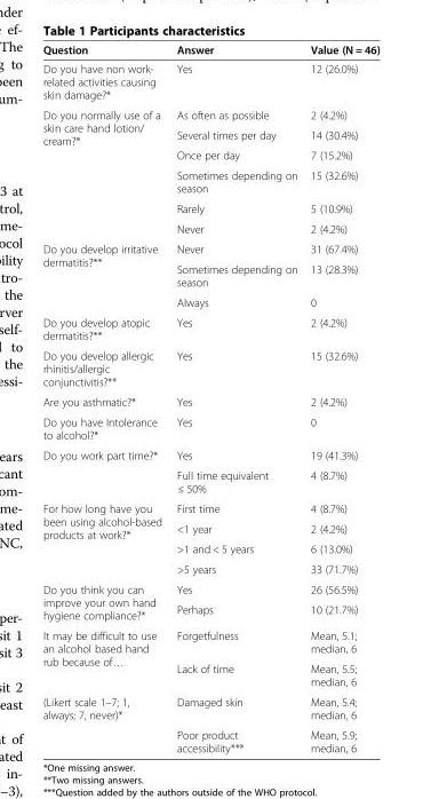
<table><thead><tr><td>Question</td><td>Answer</td><td>Value (N = 46)</td></tr></thead><tbody><tr><td>Do you have non work- related activities causing skin damage?*</td><td>Yes</td><td>12 (26.0%)</td></tr><tr><td rowspan="6">Do you normally use of a skin care hand lotion/ cream?*</td><td>As often as possible</td><td>2 (4.2%)</td></tr><tr><td>Several times per day</td><td>14 (30.4%)</td></tr><tr><td>Once per day</td><td>7 (15.2%)</td></tr><tr><td>Sometimes depending on season</td><td>15 (32.6%)</td></tr><tr><td>Rarely</td><td>5 (10.9%)</td></tr><tr><td>Never</td><td>2 (4.2%)</td></tr><tr><td rowspan="3">Do you develop irritative dermatitis?**</td><td>Never</td><td>31 (67.4%)</td></tr><tr><td>Sometimes depending on season</td><td>13 (28.3%)</td></tr><tr><td>Always</td><td>0</td></tr><tr><td>Do you develop atopic dermatitis?**</td><td>Yes</td><td>2 (4.2%)</td></tr><tr><td>Do you develop allergic rhinitis/allergic conjunctivitis?**</td><td>Yes</td><td>15 (32.6%)</td></tr><tr><td>Are you asthmatic?*</td><td>Yes</td><td>2 (4.2%)</td></tr><tr><td>Do you have Intolerance to alcohol?*</td><td>Yes</td><td>0</td></tr><tr><td rowspan="2">Do you work part time?*</td><td>Yes</td><td>19 (41.3%)</td></tr><tr><td>Full time equivalent ≤ 50%</td><td>4 (8.7%)</td></tr><tr><td rowspan="4">For how long have you been using alcohol-based products at work?*</td><td>First time</td><td>4 (8.7%)</td></tr><tr><td>&lt;1 year</td><td>2 (4.2%)</td></tr><tr><td>&gt;1 and &lt; 5 years</td><td>6 (13.0%)</td></tr><tr><td>&gt;5 years</td><td>33 (71.7%)</td></tr><tr><td rowspan="2">Do you think you can improve your own hand hygiene compliance?*</td><td>Yes</td><td>26 (56.5%)</td></tr><tr><td>Perhaps</td><td>10 (21.7%)</td></tr><tr><td rowspan="2">It may be difficult to use an alcohol based hand rub because of…</td><td>Forgetfulness</td><td>Mean, 5.1; median, 6</td></tr><tr><td>Lack of time</td><td>Mean, 5.5; median, 6</td></tr><tr><td rowspan="2">(Likert scale 1–7; 1, always; 7, never)*</td><td>Damaged skin</td><td>Mean, 5.4; median, 6</td></tr><tr><td>Poor product accessibility***</td><td>Mean, 5.9; median, 6</td></tr></tbody></table>